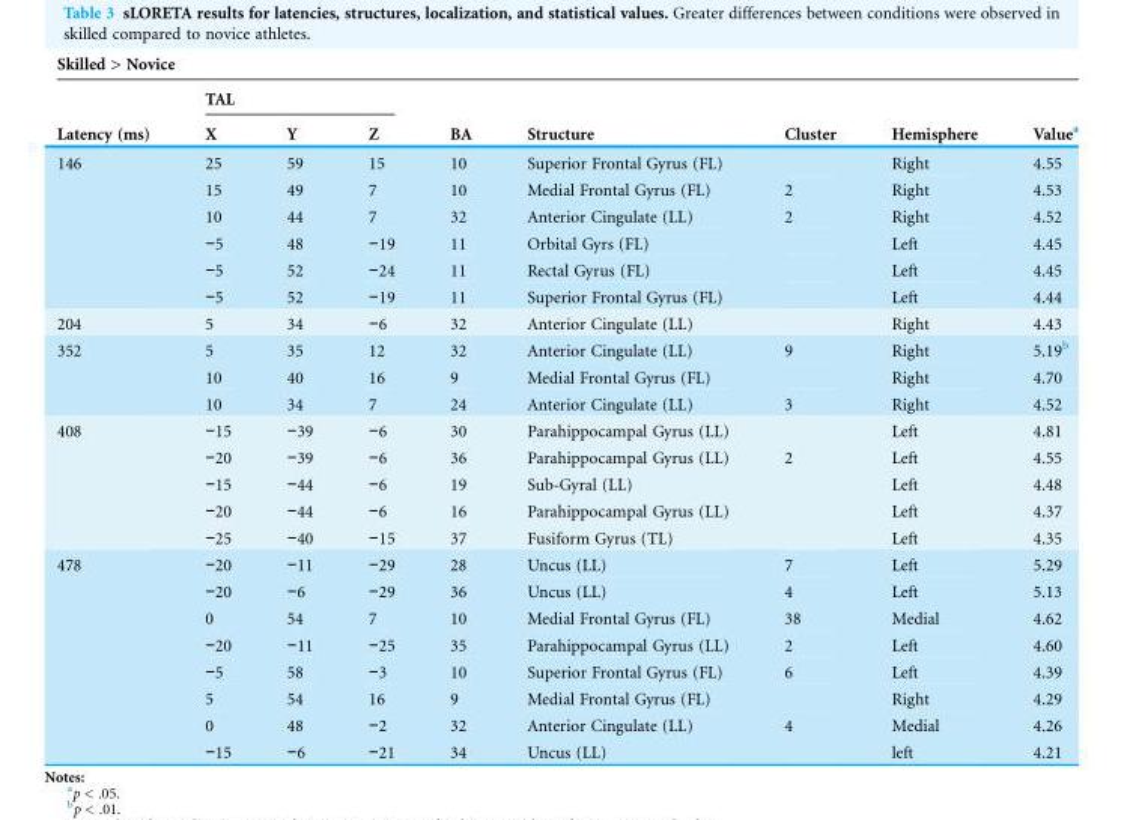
<table><thead><tr><td colspan="9">Skilled &gt; Novice</td></tr><tr><td rowspan="2">Latency (ms)</td><td colspan="3">TAL</td><td rowspan="2">BA</td><td rowspan="2">Structure</td><td rowspan="2">Cluster</td><td rowspan="2">Hemisphere</td><td rowspan="2">Value<sup>a</sup></td></tr><tr><td>X</td><td>Y</td><td>Z</td></tr></thead><tbody><tr><td rowspan="6">146</td><td>25</td><td>59</td><td>15</td><td>10</td><td>Superior Frontal Gyrus (FL)</td><td></td><td>Right</td><td>4.55</td></tr><tr><td>15</td><td>49</td><td>7</td><td>10</td><td>Medial Frontal Gyrus (FL)</td><td>2</td><td>Right</td><td>4.53</td></tr><tr><td>10</td><td>44</td><td>7</td><td>32</td><td>Anterior Cingulate (LL)</td><td>2</td><td>Right</td><td>4.52</td></tr><tr><td>−5</td><td>48</td><td>−19</td><td>11</td><td>Orbital Gyrs (FL)</td><td></td><td>Left</td><td>4.45</td></tr><tr><td>−5</td><td>52</td><td>−24</td><td>11</td><td>Rectal Gyrus (FL)</td><td></td><td>Left</td><td>4.45</td></tr><tr><td>−5</td><td>52</td><td>−19</td><td>11</td><td>Superior Frontal Gyrus (FL)</td><td></td><td>Left</td><td>4.44</td></tr><tr><td>204</td><td>5</td><td>34</td><td>−6</td><td>32</td><td>Anterior Cingulate (LL)</td><td></td><td>Right</td><td>4.43</td></tr><tr><td rowspan="3">352</td><td>5</td><td>35</td><td>12</td><td>32</td><td>Anterior Cingulate (LL)</td><td>9</td><td>Right</td><td>5.19<sup>b</sup></td></tr><tr><td>10</td><td>40</td><td>16</td><td>9</td><td>Medial Frontal Gyrus (FL)</td><td></td><td>Right</td><td>4.70</td></tr><tr><td>10</td><td>34</td><td>7</td><td>24</td><td>Anterior Cingulate (LL)</td><td>3</td><td>Right</td><td>4.52</td></tr><tr><td rowspan="5">408</td><td>−15</td><td>−39</td><td>−6</td><td>30</td><td>Parahippocampal Gyrus (LL)</td><td></td><td>Left</td><td>4.81</td></tr><tr><td>−20</td><td>−39</td><td>−6</td><td>36</td><td>Parahippocampal Gyrus (LL)</td><td>2</td><td>Left</td><td>4.55</td></tr><tr><td>−15</td><td>−44</td><td>−6</td><td>19</td><td>Sub-Gyral (LL)</td><td></td><td>Left</td><td>4.48</td></tr><tr><td>−20</td><td>−44</td><td>−6</td><td>16</td><td>Parahippocampal Gyrus (LL)</td><td></td><td>Left</td><td>4.37</td></tr><tr><td>−25</td><td>−40</td><td>−15</td><td>37</td><td>Fusiform Gyrus (TL)</td><td></td><td>Left</td><td>4.35</td></tr><tr><td rowspan="8">478</td><td>−20</td><td>−11</td><td>−29</td><td>28</td><td>Uncus (LL)</td><td>7</td><td>Left</td><td>5.29</td></tr><tr><td>−20</td><td>−6</td><td>−29</td><td>36</td><td>Uncus (LL)</td><td>4</td><td>Left</td><td>5.13</td></tr><tr><td>0</td><td>54</td><td>7</td><td>10</td><td>Medial Frontal Gyrus (FL)</td><td>38</td><td>Medial</td><td>4.62</td></tr><tr><td>−20</td><td>−11</td><td>−25</td><td>35</td><td>Parahippocampal Gyrus (LL)</td><td>2</td><td>Left</td><td>4.60</td></tr><tr><td>−5</td><td>58</td><td>−3</td><td>10</td><td>Superior Frontal Gyrus (FL)</td><td>6</td><td>Left</td><td>4.39</td></tr><tr><td>5</td><td>54</td><td>16</td><td>9</td><td>Medial Frontal Gyrus (FL)</td><td></td><td>Right</td><td>4.29</td></tr><tr><td>0</td><td>48</td><td>−2</td><td>32</td><td>Anterior Cingulate (LL)</td><td>4</td><td>Medial</td><td>4.26</td></tr><tr><td>−15</td><td>−6</td><td>−21</td><td>34</td><td>Uncus (LL)</td><td></td><td>left</td><td>4.21</td></tr></tbody></table>